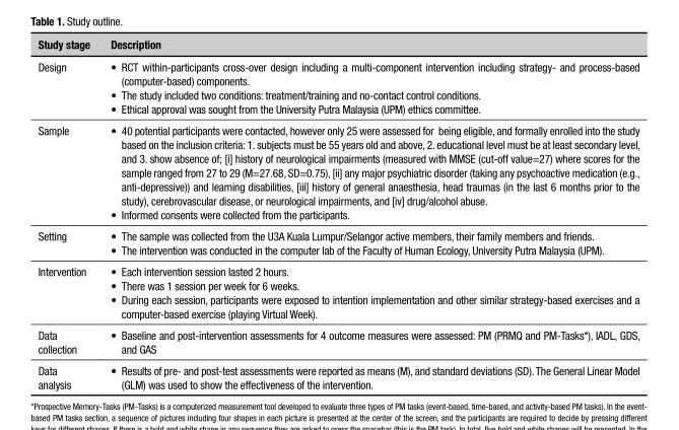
<table><thead><tr><td>Study stage</td><td>Description</td></tr></thead><tbody><tr><td>Design</td><td>• RCT within-participants cross-over design including a multi-component intervention including strategy- and process-based (computer-based) components. • The study included two conditions: treatment/training and no-contact control conditions. • Ethical approval was sought from the University Putra Malaysia (UPM) ethics committee.</td></tr><tr><td>Sample</td><td>• 40 potential participants were contacted, however only 25 were assessed for being eligible, and formally enrolled into the study based on the inclusion criteria: 1. subjects must be 55 years old and above, 2. educational level must be at least secondary level, and 3. show absence of; [i] history of neurological impairments (measured with MMSE (cut-off value=27) where scores for the sample ranged from 27 to 29 (M=27.68, SD=0.75), [ii] any major psychiatric disorder (taking any psychoactive medication (e.g., anti-depressive)) and learning disabilities, [iii] history of general anaesthesia, head traumas (in the last 6 months prior to the study), cerebrovascular disease, or neurological impairments, and [iv] drug/alcohol abuse. • Informed consents were collected from the participants.</td></tr><tr><td>Setting</td><td>• The sample was collected from the U3A Kuala Lumpur/Selangor active members, their family members and friends. • The intervention was conducted in the computer lab of the Faculty of Human Ecology, University Putra Malaysia (UPM).</td></tr><tr><td>Intervention</td><td>• Each intervention session lasted 2 hours. • There was 1 session per week for 6 weeks. • During each session, participants were exposed to intention implementation and other similar strategy-based exercises and a computer-based exercise (playing Virtual Week).</td></tr><tr><td>Data collection</td><td>• Baseline and post-intervention assessments for 4 outcome measures were assessed: PM (PRMQ and PM-Tasks*), IADL, GDS, and GAS</td></tr><tr><td>Data analysis</td><td>• Results of pre- and post-test assessments were reported as means (M), and standard deviations (SD). The General Linear Model (GLM) was used to show the effectiveness of the intervention.</td></tr></tbody></table>